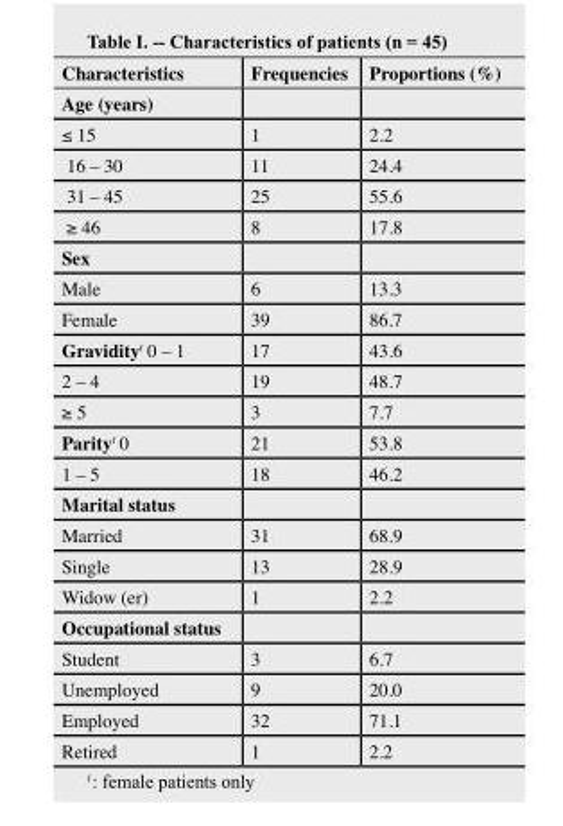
<table><thead><tr><td>Characteristics</td><td>Frequencies</td><td>Proportions (%)</td></tr></thead><tbody><tr><td colspan="3">Age (years)</td></tr><tr><td>≤ 15</td><td>1</td><td>2.2</td></tr><tr><td>16 – 30</td><td>11</td><td>24.4</td></tr><tr><td>31 – 45</td><td>25</td><td>55.6</td></tr><tr><td>≥ 46</td><td>8</td><td>17.8</td></tr><tr><td colspan="3">Sex</td></tr><tr><td>Male</td><td>6</td><td>13.3</td></tr><tr><td>Female</td><td>39</td><td>86.7</td></tr><tr><td>Gravidity<sup>f</sup> 0 – 1</td><td>17</td><td>43.6</td></tr><tr><td>2 – 4</td><td>19</td><td>48.7</td></tr><tr><td>≥ 5</td><td>3</td><td>7.7</td></tr><tr><td>Parity<sup>f</sup> 0</td><td>21</td><td>53.8</td></tr><tr><td>1 – 5</td><td>18</td><td>46.2</td></tr><tr><td colspan="3">Marital status</td></tr><tr><td>Married</td><td>31</td><td>68.9</td></tr><tr><td>Single</td><td>13</td><td>28.9</td></tr><tr><td>Widow (er)</td><td>1</td><td>2.2</td></tr><tr><td colspan="3">Occupational status</td></tr><tr><td>Student</td><td>3</td><td>6.7</td></tr><tr><td>Unemployed</td><td>9</td><td>20.0</td></tr><tr><td>Employed</td><td>32</td><td>71.1</td></tr><tr><td>Retired</td><td>1</td><td>2.2</td></tr></tbody></table>